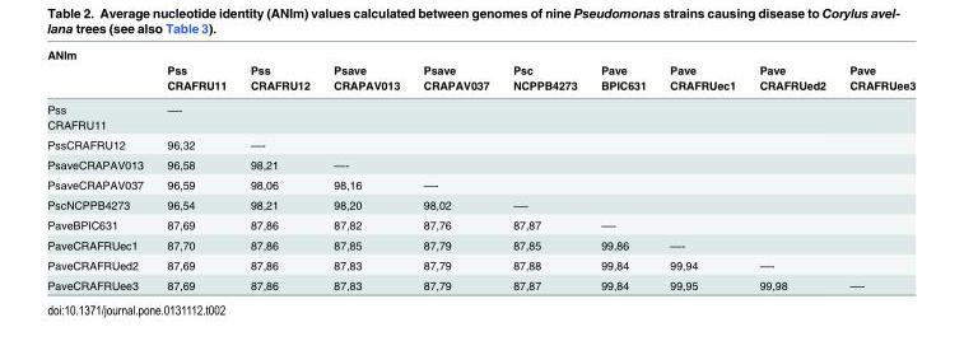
<table><thead><tr><td rowspan="2">ANIm</td><td rowspan="2">Pss CRAFRU11</td><td rowspan="2">Pss CRAFRU12</td><td rowspan="2">Psave CRAPAV013</td><td rowspan="2">Psave CRAPAV037</td><td rowspan="2">Psc NCPPB4273</td><td rowspan="2">Pave BPIC631</td><td rowspan="2">Pave CRAFRUec1</td><td rowspan="2">Pave CRAFRUed2</td><td rowspan="2">Pave CRAFRUee3</td></tr><tr></tr></thead><tbody><tr><td>Pss CRAFRU11</td><td>—-</td><td></td><td></td><td></td><td></td><td></td><td></td><td></td><td></td></tr><tr><td>PssCRAFRU12</td><td>96,32</td><td>—-</td><td></td><td></td><td></td><td></td><td></td><td></td><td></td></tr><tr><td>PsaveCRAPAV013</td><td>96,58</td><td>98,21</td><td>—-</td><td></td><td></td><td></td><td></td><td></td><td></td></tr><tr><td>PsaveCRAPAV037</td><td>96,59</td><td>98,06</td><td>98,16</td><td>—-</td><td></td><td></td><td></td><td></td><td></td></tr><tr><td>PscNCPPB4273</td><td>96,54</td><td>98,21</td><td>98,20</td><td>98,02</td><td>—-</td><td></td><td></td><td></td><td></td></tr><tr><td>PaveBPIC631</td><td>87,69</td><td>87,86</td><td>87,82</td><td>87,76</td><td>87,87</td><td>—-</td><td></td><td></td><td></td></tr><tr><td>PaveCRAFRUec1</td><td>87,70</td><td>87,86</td><td>87,85</td><td>87,79</td><td>87,85</td><td>99,86</td><td>—-</td><td></td><td></td></tr><tr><td>PaveCRAFRUed2</td><td>87,69</td><td>87,86</td><td>87,83</td><td>87,79</td><td>87,88</td><td>99,84</td><td>99,94</td><td>—-</td><td></td></tr><tr><td>PaveCRAFRUee3</td><td>87,69</td><td>87,86</td><td>87,83</td><td>87,79</td><td>87,87</td><td>99,84</td><td>99,95</td><td>99,98</td><td>—-</td></tr></tbody></table>